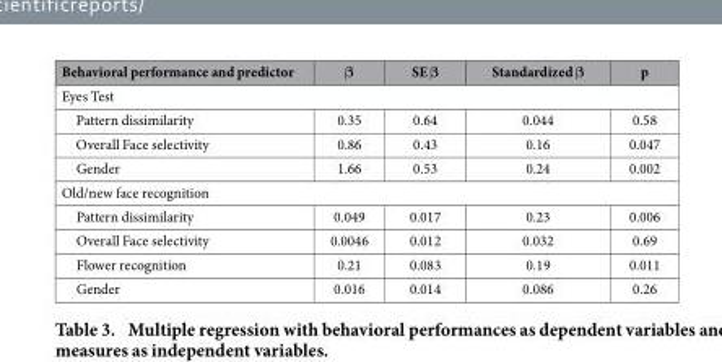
<table><thead><tr><td>Behavioral performance and predictor</td><td>β</td><td>SE β</td><td>Standardized β</td><td>p</td></tr></thead><tbody><tr><td colspan="5">Eyes Test</td></tr><tr><td>Pattern dissimilarity</td><td>0.35</td><td>0.64</td><td>0.044</td><td>0.58</td></tr><tr><td>Overall Face selectivity</td><td>0.86</td><td>0.43</td><td>0.16</td><td>0.047</td></tr><tr><td>Gender</td><td>1.66</td><td>0.53</td><td>0.24</td><td>0.002</td></tr><tr><td colspan="5">Old/new face recognition</td></tr><tr><td>Pattern dissimilarity</td><td>0.049</td><td>0.017</td><td>0.23</td><td>0.006</td></tr><tr><td>Overall Face selectivity</td><td>0.0046</td><td>0.012</td><td>0.032</td><td>0.69</td></tr><tr><td>Flower recognition</td><td>0.21</td><td>0.083</td><td>0.19</td><td>0.011</td></tr><tr><td>Gender</td><td>0.016</td><td>0.014</td><td>0.086</td><td>0.26</td></tr></tbody></table>